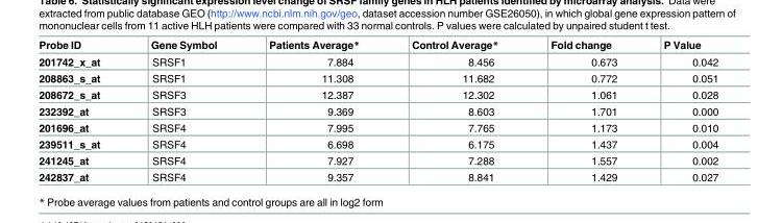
<table><thead><tr><td>Probe ID</td><td>Gene Symbol</td><td>Patients Average*</td><td>Control Average*</td><td>Fold change</td><td>P Value</td></tr></thead><tbody><tr><td>201742_x_at</td><td>SRSF1</td><td>7.884</td><td>8.456</td><td>0.673</td><td>0.042</td></tr><tr><td>208863_s_at</td><td>SRSF1</td><td>11.308</td><td>11.682</td><td>0.772</td><td>0.051</td></tr><tr><td>208672_s_at</td><td>SRSF3</td><td>12.387</td><td>12.302</td><td>1.061</td><td>0.028</td></tr><tr><td>232392_at</td><td>SRSF3</td><td>9.369</td><td>8.603</td><td>1.701</td><td>0.000</td></tr><tr><td>201696_at</td><td>SRSF4</td><td>7.995</td><td>7.765</td><td>1.173</td><td>0.010</td></tr><tr><td>239511_s_at</td><td>SRSF4</td><td>6.698</td><td>6.175</td><td>1.437</td><td>0.004</td></tr><tr><td>241245_at</td><td>SRSF4</td><td>7.927</td><td>7.288</td><td>1.557</td><td>0.002</td></tr><tr><td>242837_at</td><td>SRSF4</td><td>9.357</td><td>8.841</td><td>1.429</td><td>0.027</td></tr></tbody></table>